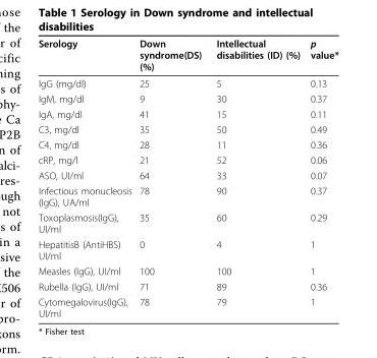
<table><thead><tr><td>Serology</td><td>Down syndrome(DS) (%)</td><td>Intellectual disabilities (ID) (%)</td><td>p value*</td></tr></thead><tbody><tr><td>IgG (mg/dl)</td><td>25</td><td>5</td><td>0.13</td></tr><tr><td>IgM, mg/dl</td><td>9</td><td>30</td><td>0.37</td></tr><tr><td>IgA, mg/dl</td><td>41</td><td>15</td><td>0.11</td></tr><tr><td>C3, mg/dl</td><td>35</td><td>50</td><td>0.49</td></tr><tr><td>C4, mg/dl</td><td>28</td><td>11</td><td>0.36</td></tr><tr><td>cRP, mg/l</td><td>21</td><td>52</td><td>0.06</td></tr><tr><td>ASO, UI/ml</td><td>64</td><td>33</td><td>0.07</td></tr><tr><td>Infectious monucleosis (IgG), UA/ml</td><td>78</td><td>90</td><td>0.37</td></tr><tr><td>Toxoplasmosis(IgG), UI/ml</td><td>35</td><td>60</td><td>0.29</td></tr><tr><td>HepatitisB (AntiHBS) UI/ml</td><td>0</td><td>4</td><td>1</td></tr><tr><td>Measles (IgG), UI/ml</td><td>100</td><td>100</td><td>1</td></tr><tr><td>Rubella (IgG), UI/ml</td><td>71</td><td>89</td><td>0.36</td></tr><tr><td>Cytomegalovirus(IgG), UI/ml</td><td>78</td><td>79</td><td>1</td></tr></tbody></table>